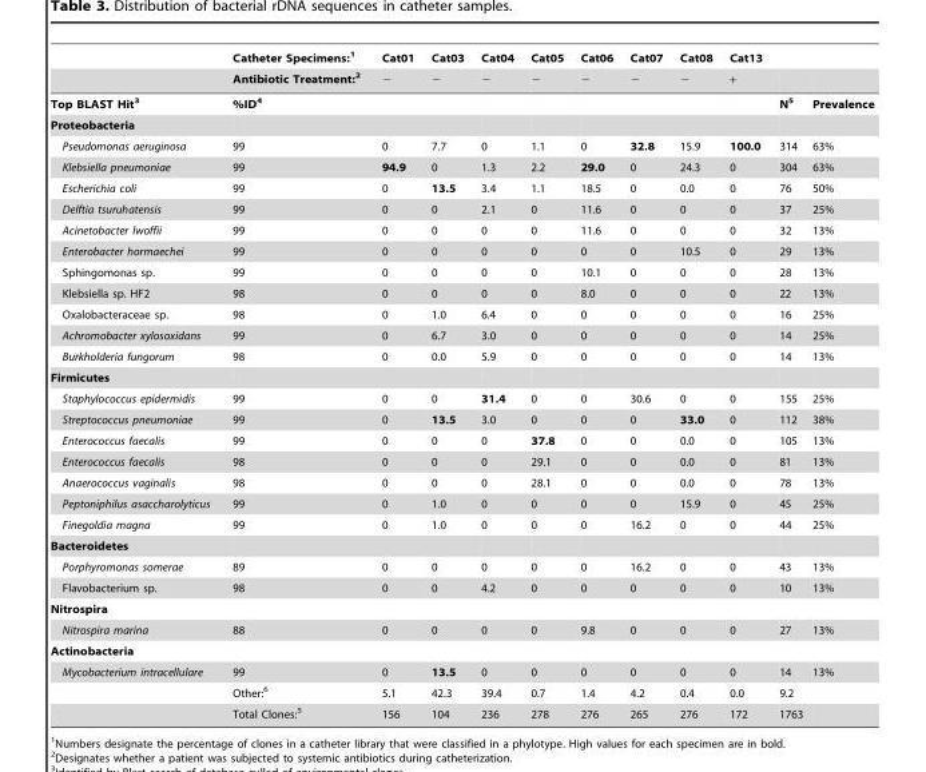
<table><thead><tr><td rowspan="2"></td><td rowspan="2">Catheter Specimens:<sup>1</sup> Antibiotic Treatment:<sup>2</sup></td><td rowspan="2">Cat01 −</td><td rowspan="2">Cat03 −</td><td rowspan="2">Cat04 −</td><td rowspan="2">Cat05 −</td><td rowspan="2">Cat06 −</td><td rowspan="2">Cat07 −</td><td rowspan="2">Cat08 −</td><td rowspan="2">Cat13 +</td><td rowspan="2"></td><td rowspan="2"></td></tr><tr></tr></thead><tbody><tr><td>Top BLAST Hit3</td><td>%ID4</td><td></td><td></td><td></td><td></td><td></td><td></td><td></td><td></td><td>N5</td><td>Prevalence</td></tr><tr><td colspan="12">Proteobacteria</td></tr><tr><td>Pseudomonas aeruginosa</td><td>99</td><td>0</td><td>7.7</td><td>0</td><td>1.1</td><td>0</td><td>32.8</td><td>15.9</td><td>100.0</td><td>314</td><td>63%</td></tr><tr><td>Klebsiella pneumoniae</td><td>99</td><td>94.9</td><td>0</td><td>1.3</td><td>2.2</td><td>29.0</td><td>0</td><td>24.3</td><td>0</td><td>304</td><td>63%</td></tr><tr><td>Escherichia coli</td><td>99</td><td>0</td><td>13.5</td><td>3.4</td><td>1.1</td><td>18.5</td><td>0</td><td>0.0</td><td>0</td><td>76</td><td>50%</td></tr><tr><td>Delftia tsuruhatensis</td><td>99</td><td>0</td><td>0</td><td>2.1</td><td>0</td><td>11.6</td><td>0</td><td>0</td><td>0</td><td>37</td><td>25%</td></tr><tr><td>Acinetobacter lwoffii</td><td>99</td><td>0</td><td>0</td><td>0</td><td>0</td><td>11.6</td><td>0</td><td>0</td><td>0</td><td>32</td><td>13%</td></tr><tr><td>Enterobacter hormaechei</td><td>99</td><td>0</td><td>0</td><td>0</td><td>0</td><td>0</td><td>0</td><td>10.5</td><td>0</td><td>29</td><td>13%</td></tr><tr><td>Sphingomonas sp.</td><td>99</td><td>0</td><td>0</td><td>0</td><td>0</td><td>10.1</td><td>0</td><td>0</td><td>0</td><td>28</td><td>13%</td></tr><tr><td>Klebsiella sp. HF2</td><td>98</td><td>0</td><td>0</td><td>0</td><td>0</td><td>8.0</td><td>0</td><td>0</td><td>0</td><td>22</td><td>13%</td></tr><tr><td>Oxalobacteraceae sp.</td><td>98</td><td>0</td><td>1.0</td><td>6.4</td><td>0</td><td>0</td><td>0</td><td>0</td><td>0</td><td>16</td><td>25%</td></tr><tr><td>Achromobacter xylosoxidans</td><td>99</td><td>0</td><td>6.7</td><td>3.0</td><td>0</td><td>0</td><td>0</td><td>0</td><td>0</td><td>14</td><td>25%</td></tr><tr><td>Burkholderia fungorum</td><td>98</td><td>0</td><td>0.0</td><td>5.9</td><td>0</td><td>0</td><td>0</td><td>0</td><td>0</td><td>14</td><td>13%</td></tr><tr><td colspan="12">Firmicutes</td></tr><tr><td>Staphylococcus epidermidis</td><td>99</td><td>0</td><td>0</td><td>31.4</td><td>0</td><td>0</td><td>30.6</td><td>0</td><td>0</td><td>155</td><td>25%</td></tr><tr><td>Streptococcus pneumoniae</td><td>99</td><td>0</td><td>13.5</td><td>3.0</td><td>0</td><td>0</td><td>0</td><td>33.0</td><td>0</td><td>112</td><td>38%</td></tr><tr><td>Enterococcus faecalis</td><td>99</td><td>0</td><td>0</td><td>0</td><td>37.8</td><td>0</td><td>0</td><td>0.0</td><td>0</td><td>105</td><td>13%</td></tr><tr><td>Enterococcus faecalis</td><td>98</td><td>0</td><td>0</td><td>0</td><td>29.1</td><td>0</td><td>0</td><td>0.0</td><td>0</td><td>81</td><td>13%</td></tr><tr><td>Anaerococcus vaginalis</td><td>98</td><td>0</td><td>0</td><td>0</td><td>28.1</td><td>0</td><td>0</td><td>0.0</td><td>0</td><td>78</td><td>13%</td></tr><tr><td>Peptoniphilus asaccharolyticus</td><td>99</td><td>0</td><td>1.0</td><td>0</td><td>0</td><td>0</td><td>0</td><td>15.9</td><td>0</td><td>45</td><td>25%</td></tr><tr><td>Finegoldia magna</td><td>99</td><td>0</td><td>1.0</td><td>0</td><td>0</td><td>0</td><td>16.2</td><td>0</td><td>0</td><td>44</td><td>25%</td></tr><tr><td colspan="12">Bacteroidetes</td></tr><tr><td>Porphyromonas somerae</td><td>89</td><td>0</td><td>0</td><td>0</td><td>0</td><td>0</td><td>16.2</td><td>0</td><td>0</td><td>43</td><td>13%</td></tr><tr><td>Flavobacterium sp.</td><td>98</td><td>0</td><td>0</td><td>4.2</td><td>0</td><td>0</td><td>0</td><td>0</td><td>0</td><td>10</td><td>13%</td></tr><tr><td colspan="12">Nitrospira</td></tr><tr><td>Nitrospira marina</td><td>88</td><td>0</td><td>0</td><td>0</td><td>0</td><td>9.8</td><td>0</td><td>0</td><td>0</td><td>27</td><td>13%</td></tr><tr><td colspan="12">Actinobacteria</td></tr><tr><td rowspan="3">Mycobacterium intracellulare</td><td>99</td><td>0</td><td>13.5</td><td>0</td><td>0</td><td>0</td><td>0</td><td>0</td><td>0</td><td>14</td><td>13%</td></tr><tr><td>Other:<sup>6</sup></td><td>5.1</td><td>42.3</td><td>39.4</td><td>0.7</td><td>1.4</td><td>4.2</td><td>0.4</td><td>0.0</td><td>9.2</td><td></td></tr><tr><td>Total Clones:<sup>5</sup></td><td>156</td><td>104</td><td>236</td><td>278</td><td>276</td><td>265</td><td>276</td><td>172</td><td>1763</td><td></td></tr></tbody></table>